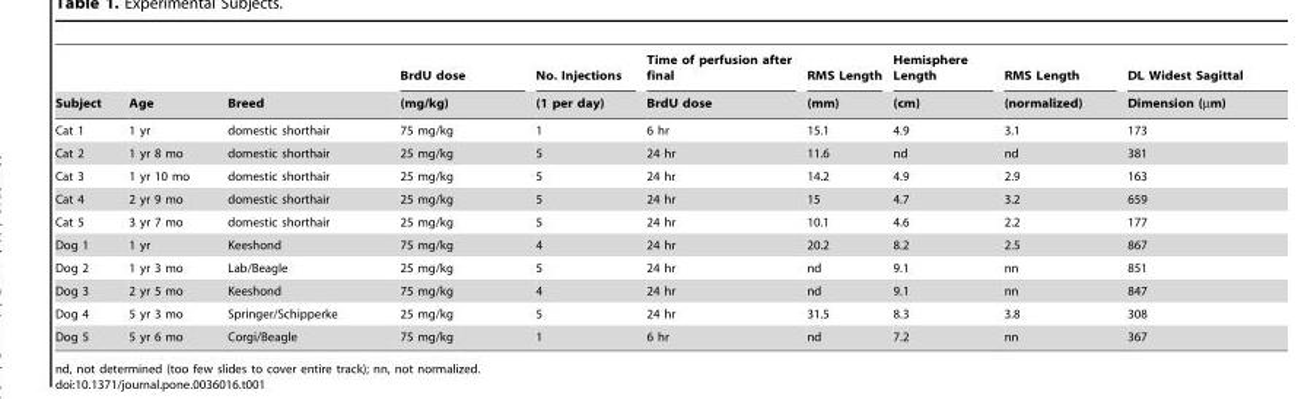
<table><thead><tr><td rowspan="2">Subject</td><td rowspan="2">Age</td><td rowspan="2">Breed</td><td rowspan="2">BrdU dose (mg/kg)</td><td rowspan="2">No. Injections (1 per day)</td><td rowspan="2">Time of perfusion after final BrdU dose</td><td rowspan="2">RMS Length (mm)</td><td rowspan="2">Hemisphere Length (cm)</td><td rowspan="2">RMS Length (normalized)</td><td rowspan="2">DL Widest Sagittal Dimension (µm)</td></tr><tr></tr></thead><tbody><tr><td>Cat 1</td><td>1 yr</td><td>domestic shorthair</td><td>75 mg/kg</td><td>1</td><td>6 hr</td><td>15.1</td><td>4.9</td><td>3.1</td><td>173</td></tr><tr><td>Cat 2</td><td>1 yr 8 mo</td><td>domestic shorthair</td><td>25 mg/kg</td><td>5</td><td>24 hr</td><td>11.6</td><td>nd</td><td>nd</td><td>381</td></tr><tr><td>Cat 3</td><td>1 yr 10 mo</td><td>domestic shorthair</td><td>25 mg/kg</td><td>5</td><td>24 hr</td><td>14.2</td><td>4.9</td><td>2.9</td><td>163</td></tr><tr><td>Cat 4</td><td>2 yr 9 mo</td><td>domestic shorthair</td><td>25 mg/kg</td><td>5</td><td>24 hr</td><td>15</td><td>4.7</td><td>3.2</td><td>659</td></tr><tr><td>Cat 5</td><td>3 yr 7 mo</td><td>domestic shorthair</td><td>25 mg/kg</td><td>5</td><td>24 hr</td><td>10.1</td><td>4.6</td><td>2.2</td><td>177</td></tr><tr><td>Dog 1</td><td>1 yr</td><td>Keeshond</td><td>75 mg/kg</td><td>4</td><td>24 hr</td><td>20.2</td><td>8.2</td><td>2.5</td><td>867</td></tr><tr><td>Dog 2</td><td>1 yr 3 mo</td><td>Lab/Beagle</td><td>25 mg/kg</td><td>5</td><td>24 hr</td><td>nd</td><td>9.1</td><td>nn</td><td>851</td></tr><tr><td>Dog 3</td><td>2 yr 5 mo</td><td>Keeshond</td><td>75 mg/kg</td><td>4</td><td>24 hr</td><td>nd</td><td>9.1</td><td>nn</td><td>847</td></tr><tr><td>Dog 4</td><td>5 yr 3 mo</td><td>Springer/Schipperke</td><td>25 mg/kg</td><td>5</td><td>24 hr</td><td>31.5</td><td>8.3</td><td>3.8</td><td>308</td></tr><tr><td>Dog 5</td><td>5 yr 6 mo</td><td>Corgi/Beagle</td><td>75 mg/kg</td><td>1</td><td>6 hr</td><td>nd</td><td>7.2</td><td>nn</td><td>367</td></tr></tbody></table>